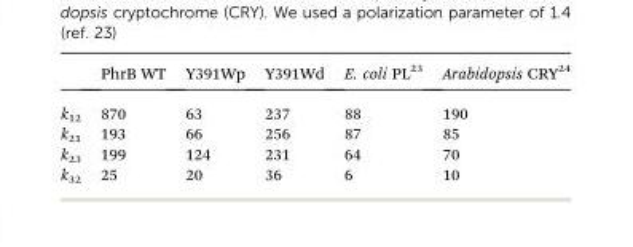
<table><thead><tr><td></td><td>PhrB WT</td><td>Y391Wp</td><td>Y391Wd</td><td>E. coli PL<sup>23</sup></td><td>Arabidopsis CRY<sup>24</sup></td></tr></thead><tbody><tr><td>k<sub>12</sub></td><td>870</td><td>63</td><td>237</td><td>88</td><td>190</td></tr><tr><td>k<sub>21</sub></td><td>193</td><td>66</td><td>256</td><td>87</td><td>85</td></tr><tr><td>k<sub>23</sub></td><td>199</td><td>124</td><td>231</td><td>64</td><td>70</td></tr><tr><td>k<sub>32</sub></td><td>25</td><td>20</td><td>36</td><td>6</td><td>10</td></tr></tbody></table>